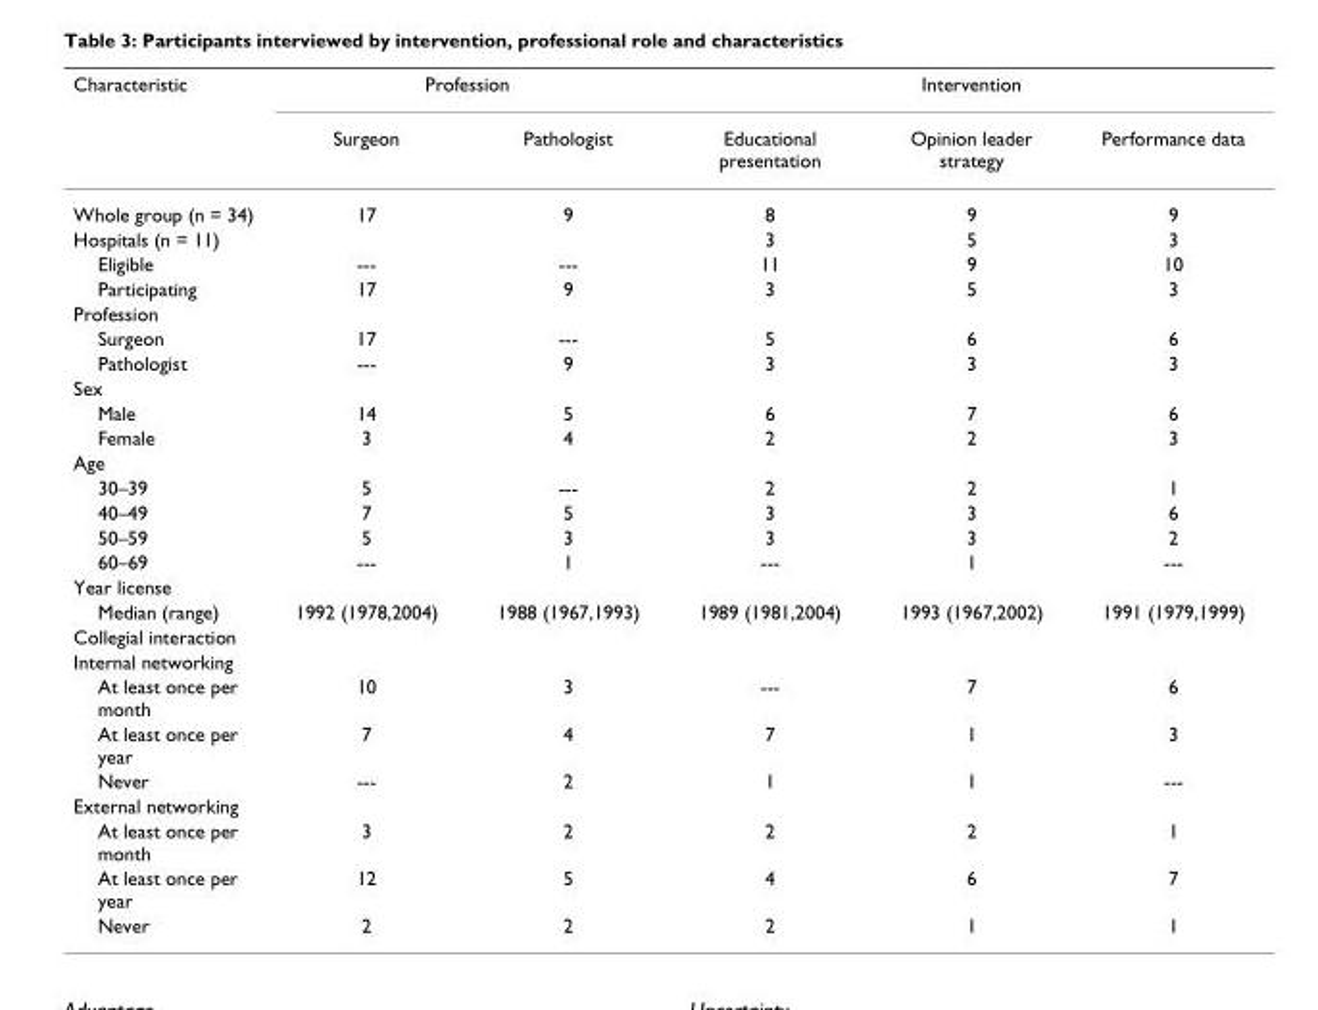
<table><thead><tr><td rowspan="2">Characteristic</td><td colspan="2">Profession</td><td colspan="3">Intervention</td></tr><tr><td>Surgeon</td><td>Pathologist</td><td>Educational presentation</td><td>Opinion leader strategy</td><td>Performance data</td></tr></thead><tbody><tr><td>Whole group (n = 34)</td><td>17</td><td>9</td><td>8</td><td>9</td><td>9</td></tr><tr><td>Hospitals (n = 11)</td><td></td><td></td><td>3</td><td>5</td><td>3</td></tr><tr><td>Eligible</td><td>---</td><td>---</td><td>11</td><td>9</td><td>10</td></tr><tr><td>Participating</td><td>17</td><td>9</td><td>3</td><td>5</td><td>3</td></tr><tr><td colspan="6">Profession</td></tr><tr><td>Surgeon</td><td>17</td><td>---</td><td>5</td><td>6</td><td>6</td></tr><tr><td>Pathologist</td><td>---</td><td>9</td><td>3</td><td>3</td><td>3</td></tr><tr><td colspan="6">Sex</td></tr><tr><td>Male</td><td>14</td><td>5</td><td>6</td><td>7</td><td>6</td></tr><tr><td>Female</td><td>3</td><td>4</td><td>2</td><td>2</td><td>3</td></tr><tr><td colspan="6">Age</td></tr><tr><td>30–39</td><td>5</td><td>---</td><td>2</td><td>2</td><td>1</td></tr><tr><td>40–49</td><td>7</td><td>5</td><td>3</td><td>3</td><td>6</td></tr><tr><td>50–59</td><td>5</td><td>3</td><td>3</td><td>3</td><td>2</td></tr><tr><td>60–69</td><td>---</td><td>1</td><td>---</td><td>1</td><td>---</td></tr><tr><td colspan="6">Year license</td></tr><tr><td>Median (range)</td><td>1992 (1978,2004)</td><td>1988 (1967,1993)</td><td>1989 (1981,2004)</td><td>1993 (1967,2002)</td><td>1991 (1979,1999)</td></tr><tr><td colspan="6">Collegial interaction</td></tr><tr><td colspan="6">Internal networking</td></tr><tr><td>At least once per month</td><td>10</td><td>3</td><td>---</td><td>7</td><td>6</td></tr><tr><td>At least once per year</td><td>7</td><td>4</td><td>7</td><td>1</td><td>3</td></tr><tr><td>Never</td><td>---</td><td>2</td><td>1</td><td>1</td><td>---</td></tr><tr><td colspan="6">External networking</td></tr><tr><td>At least once per month</td><td>3</td><td>2</td><td>2</td><td>2</td><td>1</td></tr><tr><td>At least once per year</td><td>12</td><td>5</td><td>4</td><td>6</td><td>7</td></tr><tr><td>Never</td><td>2</td><td>2</td><td>2</td><td>1</td><td>1</td></tr></tbody></table>